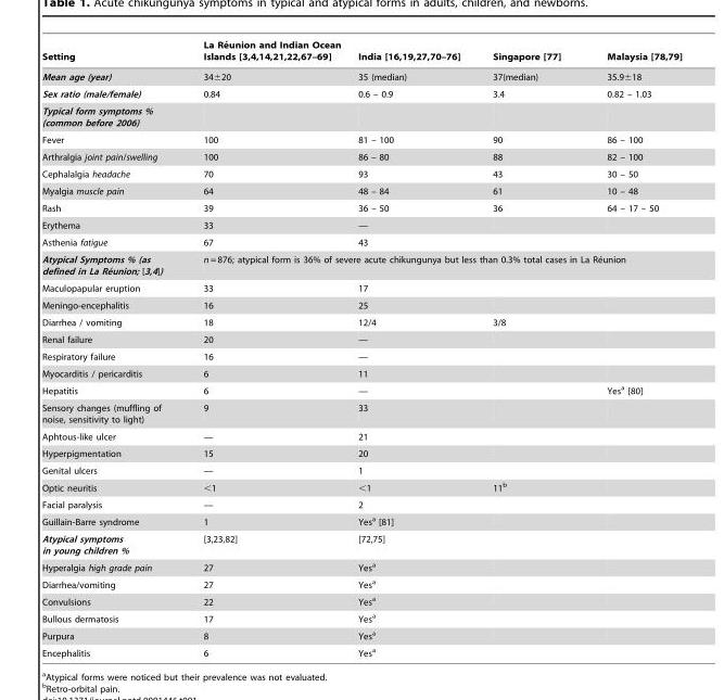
<table><thead><tr><td>Setting</td><td>La Re´union and Indian Ocean Islands [3,4,14,21,22,67–69]</td><td>India [16,19,27,70–76]</td><td>Singapore [77]</td><td>Malaysia [78,79]</td></tr></thead><tbody><tr><td>Mean age (year)</td><td>34±20</td><td>35 (median)</td><td>37(median)</td><td>35.9±18</td></tr><tr><td>Sex ratio (male/female)</td><td>0.84</td><td>0.6 – 0.9</td><td>3.4</td><td>0.82 – 1.03</td></tr><tr><td colspan="5">Typical form symptoms % (common before 2006)</td></tr><tr><td>Fever</td><td>100</td><td>81 – 100</td><td>90</td><td>86 – 100</td></tr><tr><td>Arthralgia joint pain/swelling</td><td>100</td><td>86 – 80</td><td>88</td><td>82 – 100</td></tr><tr><td>Cephalalgia headache</td><td>70</td><td>93</td><td>43</td><td>30 – 50</td></tr><tr><td>Myalgia muscle pain</td><td>64</td><td>48 – 84</td><td>61</td><td>10 – 48</td></tr><tr><td>Rash</td><td>39</td><td>36 – 50</td><td>36</td><td>64 – 17 – 50</td></tr><tr><td>Erythema</td><td>33</td><td>—</td><td></td><td></td></tr><tr><td>Asthenia fatigue</td><td>67</td><td>43</td><td></td><td></td></tr><tr><td>Atypical Symptoms % (as defined in La Re´union; [3,4])</td><td colspan="4">n = 876; atypical form is 36% of severe acute chikungunya but less than 0.3% total cases in La Re´union</td></tr><tr><td>Maculopapular eruption</td><td>33</td><td>17</td><td></td><td></td></tr><tr><td>Meningo-encephalitis</td><td>16</td><td>25</td><td></td><td></td></tr><tr><td>Diarrhea / vomiting</td><td>18</td><td>12/4</td><td>3/8</td><td></td></tr><tr><td>Renal failure</td><td>20</td><td>—</td><td></td><td></td></tr><tr><td>Respiratory failure</td><td>16</td><td>—</td><td></td><td></td></tr><tr><td>Myocarditis / pericarditis</td><td>6</td><td>11</td><td></td><td></td></tr><tr><td>Hepatitis</td><td>6</td><td>—</td><td></td><td>Yes<sup>a</sup> [80]</td></tr><tr><td>Sensory changes (muffling of noise, sensitivity to light)</td><td>9</td><td>33</td><td></td><td></td></tr><tr><td>Aphtous-like ulcer</td><td>—</td><td>21</td><td></td><td></td></tr><tr><td>Hyperpigmentation</td><td>15</td><td>20</td><td></td><td></td></tr><tr><td>Genital ulcers</td><td>—</td><td>1</td><td></td><td></td></tr><tr><td>Optic neuritis</td><td>&lt;1</td><td>&lt;1</td><td>11<sup>b</sup></td><td></td></tr><tr><td>Facial paralysis</td><td>—</td><td>2</td><td></td><td></td></tr><tr><td>Guillain-Barre syndrome</td><td>1</td><td>Yes<sup>a</sup> [81]</td><td></td><td></td></tr><tr><td>Atypical symptoms in young children %</td><td>[3,23,82]</td><td>[72,75]</td><td></td><td></td></tr><tr><td>Hyperalgia high grade pain</td><td>27</td><td>Yes<sup>a</sup></td><td></td><td></td></tr><tr><td>Diarrhea/vomiting</td><td>27</td><td>Yes<sup>a</sup></td><td></td><td></td></tr><tr><td>Convulsions</td><td>22</td><td>Yes<sup>a</sup></td><td></td><td></td></tr><tr><td>Bullous dermatosis</td><td>17</td><td>Yes<sup>a</sup></td><td></td><td></td></tr><tr><td>Purpura</td><td>8</td><td>Yes<sup>a</sup></td><td></td><td></td></tr><tr><td>Encephalitis</td><td>6</td><td>Yes<sup>a</sup></td><td></td><td></td></tr></tbody></table>